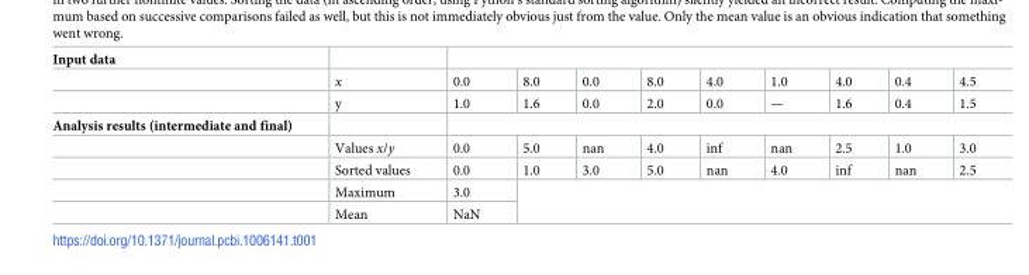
<table><tbody><tr><td colspan="11">Input data</td></tr><tr><td></td><td>x</td><td>0.0</td><td>8.0</td><td>0.0</td><td>8.0</td><td>4.0</td><td>1.0</td><td>4.0</td><td>0.4</td><td>4.5</td></tr><tr><td></td><td>y</td><td>1.0</td><td>1.6</td><td>0.0</td><td>2.0</td><td>0.0</td><td>—</td><td>1.6</td><td>0.4</td><td>1.5</td></tr><tr><td colspan="11">Analysis results (intermediate and final)</td></tr><tr><td></td><td>Values x/y</td><td>0.0</td><td>5.0</td><td>nan</td><td>4.0</td><td>inf</td><td>nan</td><td>2.5</td><td>1.0</td><td>3.0</td></tr><tr><td></td><td>Sorted values</td><td>0.0</td><td>1.0</td><td>3.0</td><td>5.0</td><td>nan</td><td>4.0</td><td>inf</td><td>nan</td><td>2.5</td></tr><tr><td></td><td>Maximum</td><td>3.0</td><td colspan="8"></td></tr><tr><td></td><td>Mean</td><td>NaN</td><td colspan="8"></td></tr></tbody></table>